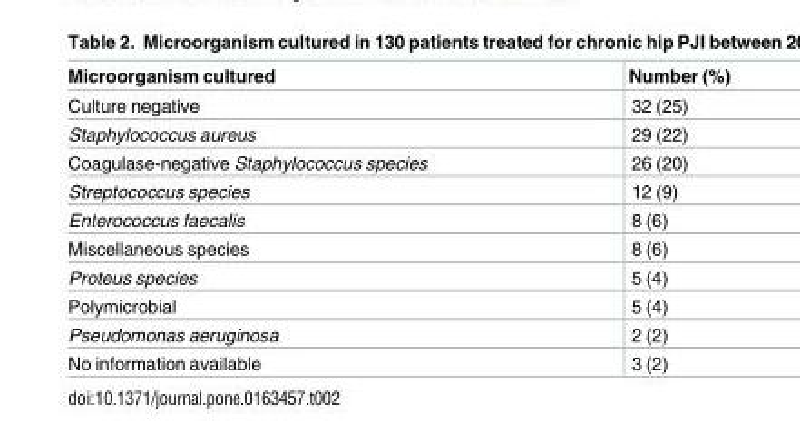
<table><thead><tr><td>Microorganism cultured</td><td>Number (%)</td></tr></thead><tbody><tr><td>Culture negative</td><td>32 (25)</td></tr><tr><td>Staphylococcus aureus</td><td>29 (22)</td></tr><tr><td>Coagulase-negative Staphylococcus species</td><td>26 (20)</td></tr><tr><td>Streptococcus species</td><td>12 (9)</td></tr><tr><td>Enterococcus faecalis</td><td>8 (6)</td></tr><tr><td>Miscellaneous species</td><td>8 (6)</td></tr><tr><td>Proteus species</td><td>5 (4)</td></tr><tr><td>Polymicrobial</td><td>5 (4)</td></tr><tr><td>Pseudomonas aeruginosa</td><td>2 (2)</td></tr><tr><td>No information available</td><td>3 (2)</td></tr></tbody></table>